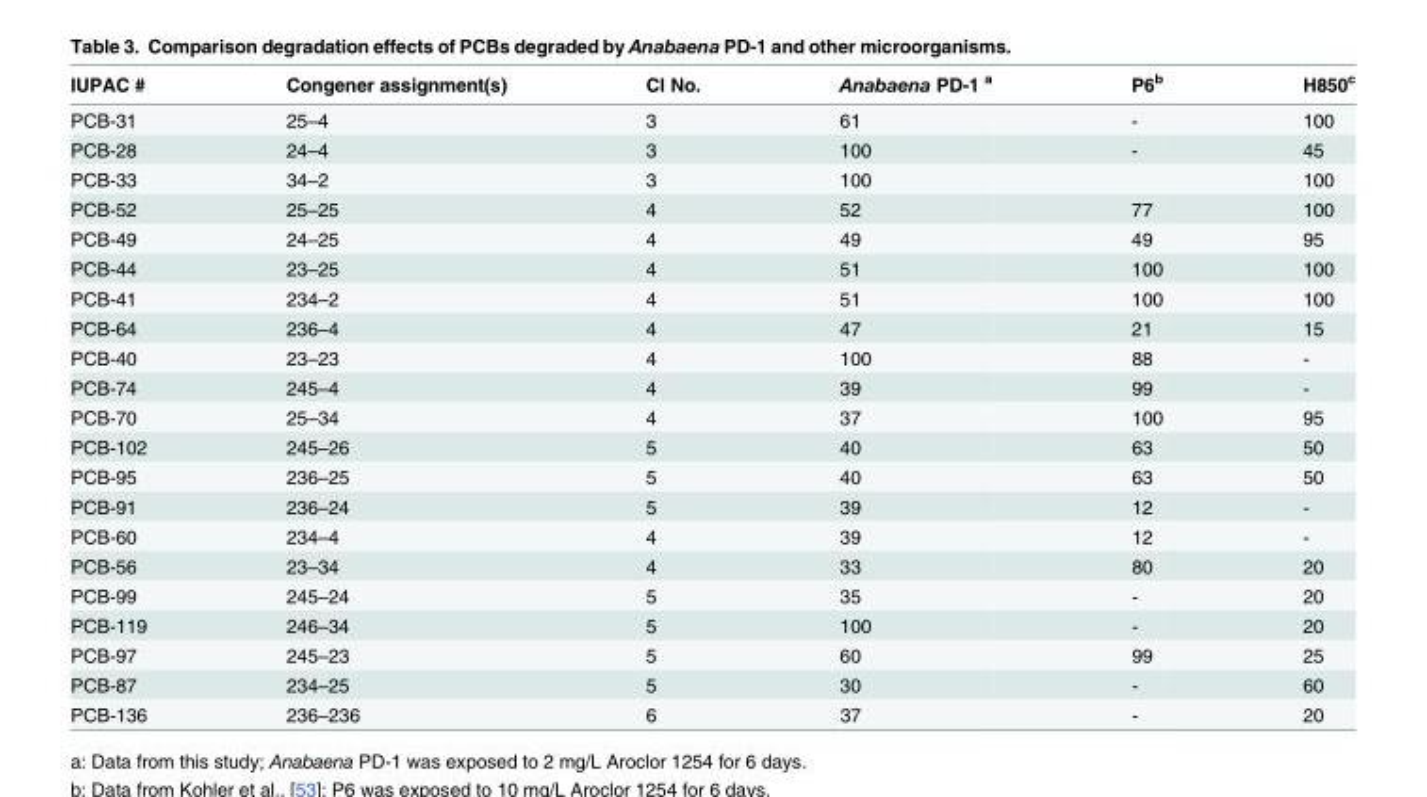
<table><thead><tr><td>IUPAC #</td><td>Congener assignment(s)</td><td>Cl No.</td><td>Anabaena PD-1 <sup>a</sup></td><td>P6<sup>b</sup></td><td>H850<sup>c</sup></td></tr></thead><tbody><tr><td>PCB-31</td><td>25–4</td><td>3</td><td>61</td><td>-</td><td>100</td></tr><tr><td>PCB-28</td><td>24–4</td><td>3</td><td>100</td><td>-</td><td>45</td></tr><tr><td>PCB-33</td><td>34–2</td><td>3</td><td>100</td><td></td><td>100</td></tr><tr><td>PCB-52</td><td>25–25</td><td>4</td><td>52</td><td>77</td><td>100</td></tr><tr><td>PCB-49</td><td>24–25</td><td>4</td><td>49</td><td>49</td><td>95</td></tr><tr><td>PCB-44</td><td>23–25</td><td>4</td><td>51</td><td>100</td><td>100</td></tr><tr><td>PCB-41</td><td>234–2</td><td>4</td><td>51</td><td>100</td><td>100</td></tr><tr><td>PCB-64</td><td>236–4</td><td>4</td><td>47</td><td>21</td><td>15</td></tr><tr><td>PCB-40</td><td>23–23</td><td>4</td><td>100</td><td>88</td><td>-</td></tr><tr><td>PCB-74</td><td>245–4</td><td>4</td><td>39</td><td>99</td><td>-</td></tr><tr><td>PCB-70</td><td>25–34</td><td>4</td><td>37</td><td>100</td><td>95</td></tr><tr><td>PCB-102</td><td>245–26</td><td>5</td><td>40</td><td>63</td><td>50</td></tr><tr><td>PCB-95</td><td>236–25</td><td>5</td><td>40</td><td>63</td><td>50</td></tr><tr><td>PCB-91</td><td>236–24</td><td>5</td><td>39</td><td>12</td><td>-</td></tr><tr><td>PCB-60</td><td>234–4</td><td>4</td><td>39</td><td>12</td><td>-</td></tr><tr><td>PCB-56</td><td>23–34</td><td>4</td><td>33</td><td>80</td><td>20</td></tr><tr><td>PCB-99</td><td>245–24</td><td>5</td><td>35</td><td>-</td><td>20</td></tr><tr><td>PCB-119</td><td>246–34</td><td>5</td><td>100</td><td>-</td><td>20</td></tr><tr><td>PCB-97</td><td>245–23</td><td>5</td><td>60</td><td>99</td><td>25</td></tr><tr><td>PCB-87</td><td>234–25</td><td>5</td><td>30</td><td>-</td><td>60</td></tr><tr><td>PCB-136</td><td>236–236</td><td>6</td><td>37</td><td>-</td><td>20</td></tr></tbody></table>